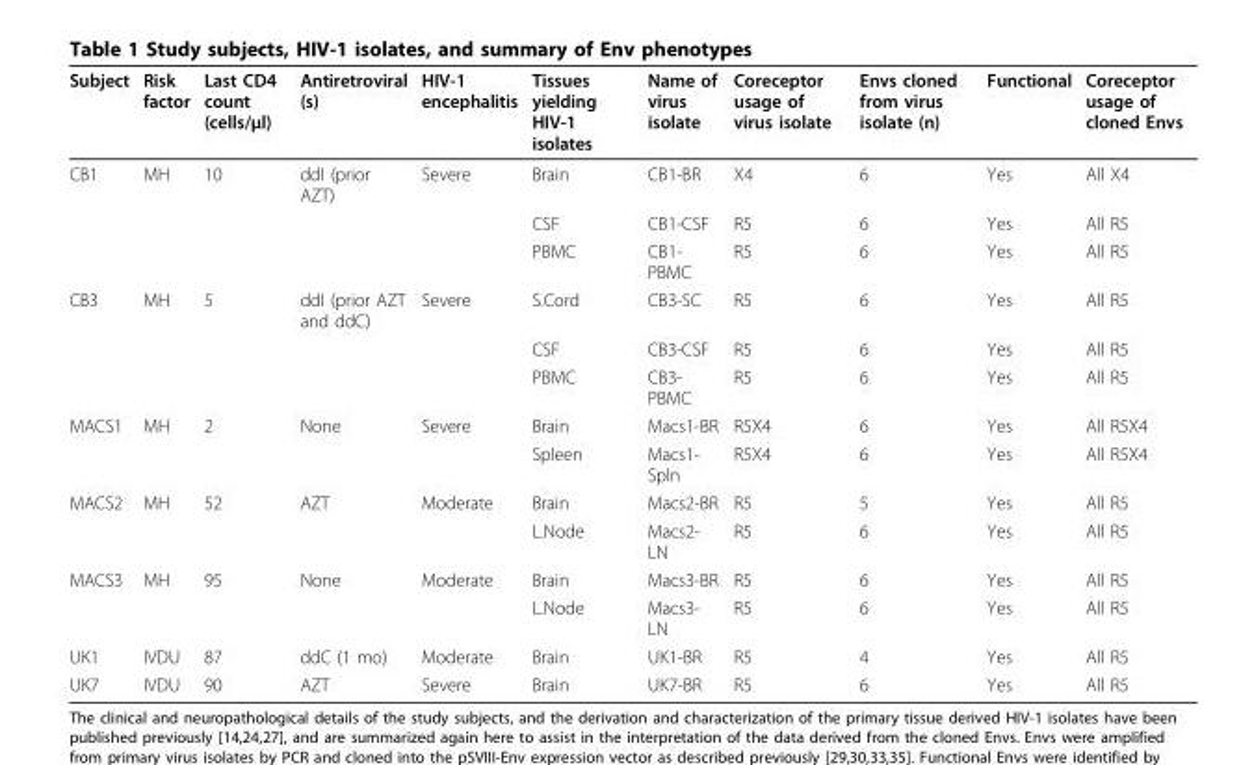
<table><thead><tr><td>Subject</td><td>Risk factor</td><td>Last CD4 count (cells/μl)</td><td>Antiretroviral (s)</td><td>HIV-1 encephalitis</td><td>Tissues yielding HIV-1 isolates</td><td>Name of virus isolate</td><td>Coreceptor usage of virus isolate</td><td>Envs cloned from virus isolate (n)</td><td>Functional</td><td>Coreceptor usage of cloned Envs</td></tr></thead><tbody><tr><td rowspan="3">CB1</td><td>MH</td><td>10</td><td>ddI (prior AZT)</td><td>Severe</td><td>Brain</td><td>CB1-BR</td><td>X4</td><td>6</td><td>Yes</td><td>All X4</td></tr><tr><td></td><td></td><td></td><td></td><td>CSF</td><td>CB1-CSF</td><td>R5</td><td>6</td><td>Yes</td><td>All R5</td></tr><tr><td></td><td></td><td></td><td></td><td>PBMC</td><td>CB1- PBMC</td><td>R5</td><td>6</td><td>Yes</td><td>All R5</td></tr><tr><td rowspan="3">CB3</td><td>MH</td><td>5</td><td>ddI (prior AZT and ddC)</td><td>Severe</td><td>S.Cord</td><td>CB3-SC</td><td>R5</td><td>6</td><td>Yes</td><td>All R5</td></tr><tr><td></td><td></td><td></td><td></td><td>CSF</td><td>CB3-CSF</td><td>R5</td><td>6</td><td>Yes</td><td>All R5</td></tr><tr><td></td><td></td><td></td><td></td><td>PBMC</td><td>CB3- PBMC</td><td>R5</td><td>6</td><td>Yes</td><td>All R5</td></tr><tr><td rowspan="2">MACS1</td><td>MH</td><td>2</td><td>None</td><td>Severe</td><td>Brain</td><td>Macs1-BR</td><td>R5X4</td><td>6</td><td>Yes</td><td>All R5X4</td></tr><tr><td></td><td></td><td></td><td></td><td>Spleen</td><td>Macs1- Spln</td><td>R5X4</td><td>6</td><td>Yes</td><td>All R5X4</td></tr><tr><td rowspan="2">MACS2</td><td>MH</td><td>52</td><td>AZT</td><td>Moderate</td><td>Brain</td><td>Macs2-BR</td><td>R5</td><td>5</td><td>Yes</td><td>All R5</td></tr><tr><td></td><td></td><td></td><td></td><td>L.Node</td><td>Macs2- LN</td><td>R5</td><td>6</td><td>Yes</td><td>All R5</td></tr><tr><td rowspan="2">MACS3</td><td>MH</td><td>95</td><td>None</td><td>Moderate</td><td>Brain</td><td>Macs3-BR</td><td>R5</td><td>6</td><td>Yes</td><td>All R5</td></tr><tr><td></td><td></td><td></td><td></td><td>L.Node</td><td>Macs3- LN</td><td>R5</td><td>6</td><td>Yes</td><td>All R5</td></tr><tr><td>UK1</td><td>IVDU</td><td>87</td><td>ddC (1 mo)</td><td>Moderate</td><td>Brain</td><td>UK1-BR</td><td>R5</td><td>4</td><td>Yes</td><td>All R5</td></tr><tr><td>UK7</td><td>IVDU</td><td>90</td><td>AZT</td><td>Severe</td><td>Brain</td><td>UK7-BR</td><td>R5</td><td>6</td><td>Yes</td><td>All R5</td></tr></tbody></table>